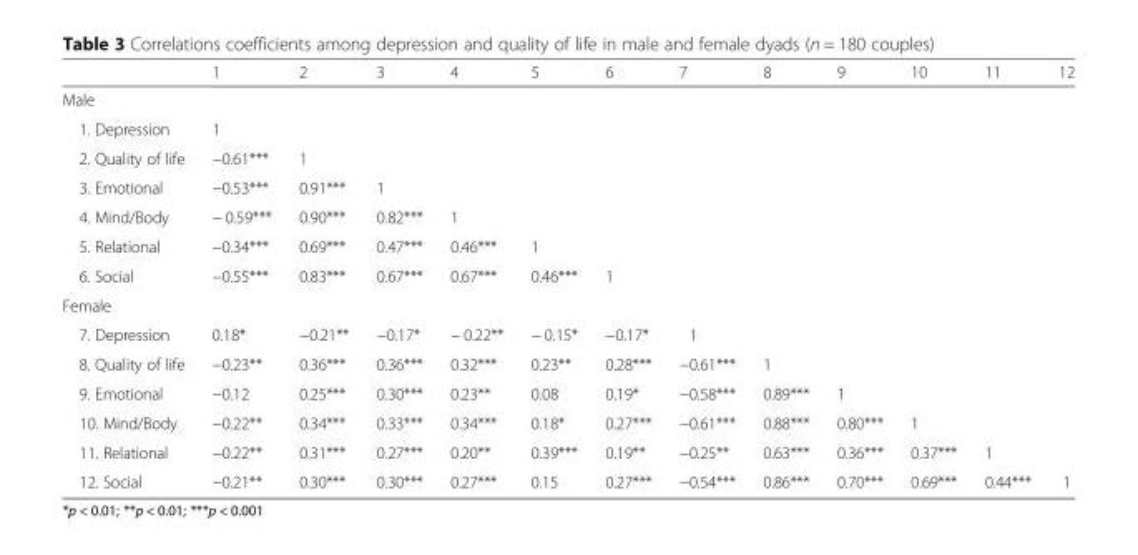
<table><thead><tr><td></td><td>1</td><td>2</td><td>3</td><td>4</td><td>5</td><td>6</td><td>7</td><td>8</td><td>9</td><td>10</td><td>11</td><td>12</td></tr></thead><tbody><tr><td colspan="13">Male</td></tr><tr><td>1. Depression</td><td>1</td><td></td><td></td><td></td><td></td><td></td><td></td><td></td><td></td><td></td><td></td><td></td></tr><tr><td>2. Quality of life</td><td>−0.61***</td><td>1</td><td></td><td></td><td></td><td></td><td></td><td></td><td></td><td></td><td></td><td></td></tr><tr><td>3. Emotional</td><td>−0.53***</td><td>0.91***</td><td>1</td><td></td><td></td><td></td><td></td><td></td><td></td><td></td><td></td><td></td></tr><tr><td>4. Mind/Body</td><td>− 0.59***</td><td>0.90***</td><td>0.82***</td><td>1</td><td></td><td></td><td></td><td></td><td></td><td></td><td></td><td></td></tr><tr><td>5. Relational</td><td>−0.34***</td><td>0.69***</td><td>0.47***</td><td>0.46***</td><td>1</td><td></td><td></td><td></td><td></td><td></td><td></td><td></td></tr><tr><td>6. Social</td><td>−0.55***</td><td>0.83***</td><td>0.67***</td><td>0.67***</td><td>0.46***</td><td>1</td><td></td><td></td><td></td><td></td><td></td><td></td></tr><tr><td colspan="13">Female</td></tr><tr><td>7. Depression</td><td>0.18*</td><td>−0.21**</td><td>−0.17*</td><td>− 0.22**</td><td>− 0.15*</td><td>−0.17*</td><td>1</td><td></td><td></td><td></td><td></td><td></td></tr><tr><td>8. Quality of life</td><td>−0.23**</td><td>0.36***</td><td>0.36***</td><td>0.32***</td><td>0.23**</td><td>0.28***</td><td>−0.61***</td><td>1</td><td></td><td></td><td></td><td></td></tr><tr><td>9. Emotional</td><td>−0.12</td><td>0.25***</td><td>0.30***</td><td>0.23**</td><td>0.08</td><td>0.19*</td><td>−0.58***</td><td>0.89***</td><td>1</td><td></td><td></td><td></td></tr><tr><td>10. Mind/Body</td><td>−0.22**</td><td>0.34***</td><td>0.33***</td><td>0.34***</td><td>0.18*</td><td>0.27***</td><td>−0.61***</td><td>0.88***</td><td>0.80***</td><td>1</td><td></td><td></td></tr><tr><td>11. Relational</td><td>−0.22**</td><td>0.31***</td><td>0.27***</td><td>0.20**</td><td>0.39***</td><td>0.19**</td><td>−0.25**</td><td>0.63***</td><td>0.36***</td><td>0.37***</td><td>1</td><td></td></tr><tr><td>12. Social</td><td>−0.21**</td><td>0.30***</td><td>0.30***</td><td>0.27***</td><td>0.15</td><td>0.27***</td><td>−0.54***</td><td>0.86***</td><td>0.70***</td><td>0.69***</td><td>0.44***</td><td>1</td></tr></tbody></table>